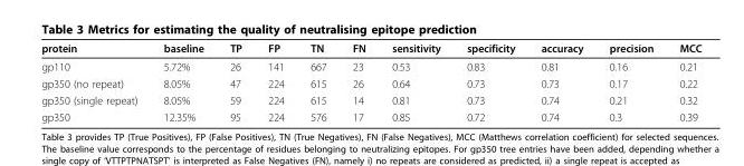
<table><thead><tr><td>protein</td><td>baseline</td><td>TP</td><td>FP</td><td>TN</td><td>FN</td><td>sensitivity</td><td>specificity</td><td>accuracy</td><td>precision</td><td>MCC</td></tr></thead><tbody><tr><td>gp110</td><td>5.72%</td><td>26</td><td>141</td><td>667</td><td>23</td><td>0.53</td><td>0.83</td><td>0.81</td><td>0.16</td><td>0.21</td></tr><tr><td>gp350 (no repeat)</td><td>8.05%</td><td>47</td><td>224</td><td>615</td><td>26</td><td>0.64</td><td>0.73</td><td>0.73</td><td>0.17</td><td>0.22</td></tr><tr><td>gp350 (single repeat)</td><td>8.05%</td><td>59</td><td>224</td><td>615</td><td>14</td><td>0.81</td><td>0.73</td><td>0.74</td><td>0.21</td><td>0.32</td></tr><tr><td>gp350</td><td>12.35%</td><td>95</td><td>224</td><td>576</td><td>17</td><td>0.85</td><td>0.72</td><td>0.74</td><td>0.3</td><td>0.39</td></tr></tbody></table>